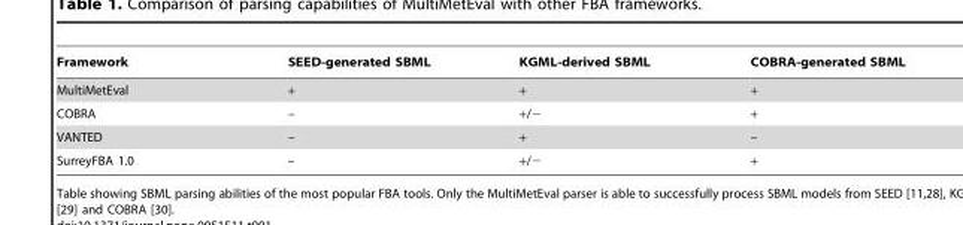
<table><thead><tr><td>Framework</td><td>SEED-generated SBML</td><td>KGML-derived SBML</td><td>COBRA-generated SBML</td></tr></thead><tbody><tr><td>MultiMetEval</td><td>+</td><td>+</td><td>+</td></tr><tr><td>COBRA</td><td>–</td><td>+/−</td><td>+</td></tr><tr><td>VANTED</td><td>–</td><td>+</td><td>–</td></tr><tr><td>SurreyFBA 1.0</td><td>–</td><td>+/−</td><td>+</td></tr></tbody></table>